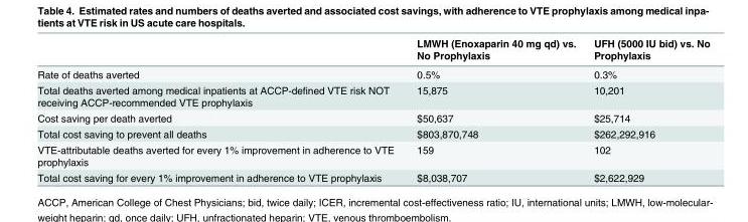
<table><thead><tr><td></td><td>LMWH (Enoxaparin 40 mg qd) vs. No Prophylaxis</td><td>UFH (5000 IU bid) vs. No Prophylaxis</td></tr></thead><tbody><tr><td>Rate of deaths averted</td><td>0.5%</td><td>0.3%</td></tr><tr><td>Total deaths averted among medical inpatients at ACCP-defined VTE risk NOT receiving ACCP-recommended VTE prophylaxis</td><td>15,875</td><td>10,201</td></tr><tr><td>Cost saving per death averted</td><td>$50,637</td><td>$25,714</td></tr><tr><td>Total cost saving to prevent all deaths</td><td>$803,870,748</td><td>$262,292,916</td></tr><tr><td>VTE-attributable deaths averted for every 1% improvement in adherence to VTE prophylaxis</td><td>159</td><td>102</td></tr><tr><td>Total cost saving for every 1% improvement in adherence to VTE prophylaxis</td><td>$8,038,707</td><td>$2,622,929</td></tr></tbody></table>